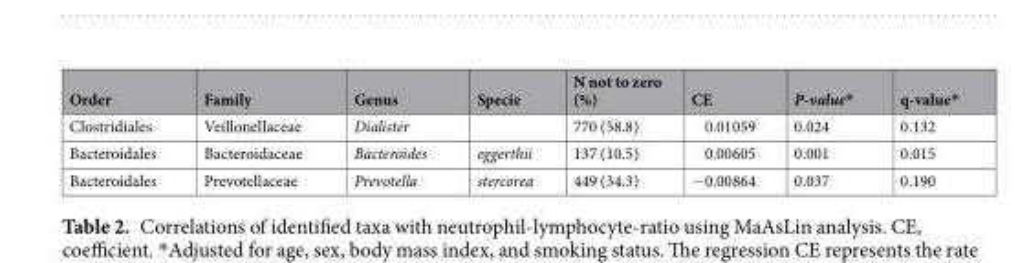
<table><thead><tr><td>Order</td><td>Family</td><td>Genus</td><td>Specie</td><td>N not to zero (%)</td><td>CE</td><td>P-value*</td><td>q-value*</td></tr></thead><tbody><tr><td>Clostridiales</td><td>Veillonellaceae</td><td>Dialister</td><td></td><td>770 (58.8)</td><td>0.01059</td><td>0.024</td><td>0.132</td></tr><tr><td>Bacteroidales</td><td>Bacteroidaceae</td><td>Bacteroides</td><td>eggerthii</td><td>137 (10.5)</td><td>0.00605</td><td>0.001</td><td>0.015</td></tr><tr><td>Bacteroidales</td><td>Prevotellaceae</td><td>Prevotella</td><td>stercorea</td><td>449 (34.3)</td><td>−0.00864</td><td>0.037</td><td>0.190</td></tr></tbody></table>